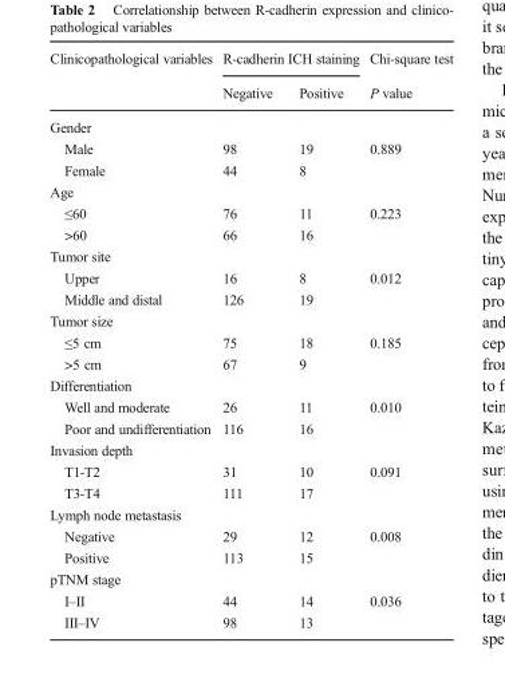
<table><thead><tr><td rowspan="2">Clinicopathological variables</td><td colspan="2">R-cadherin ICH staining</td><td rowspan="2">Chi-square test P value</td></tr><tr><td>Negative</td><td>Positive</td></tr></thead><tbody><tr><td colspan="4">Gender</td></tr><tr><td>Male</td><td>98</td><td>19</td><td>0.889</td></tr><tr><td>Female</td><td>44</td><td>8</td><td></td></tr><tr><td colspan="4">Age</td></tr><tr><td>≤60</td><td>76</td><td>11</td><td>0.223</td></tr><tr><td>&gt;60</td><td>66</td><td>16</td><td></td></tr><tr><td colspan="4">Tumor site</td></tr><tr><td>Upper</td><td>16</td><td>8</td><td>0.012</td></tr><tr><td>Middle and distal</td><td>126</td><td>19</td><td></td></tr><tr><td colspan="4">Tumor size</td></tr><tr><td>≤5 cm</td><td>75</td><td>18</td><td>0.185</td></tr><tr><td>&gt;5 cm</td><td>67</td><td>9</td><td></td></tr><tr><td colspan="4">Differentiation</td></tr><tr><td>Well and moderate</td><td>26</td><td>11</td><td>0.010</td></tr><tr><td>Poor and undifferentiation</td><td>116</td><td>16</td><td></td></tr><tr><td colspan="4">Invasion depth</td></tr><tr><td>T1-T2</td><td>31</td><td>10</td><td>0.091</td></tr><tr><td>T3-T4</td><td>111</td><td>17</td><td></td></tr><tr><td colspan="4">Lymph node metastasis</td></tr><tr><td>Negative</td><td>29</td><td>12</td><td>0.008</td></tr><tr><td>Positive</td><td>113</td><td>15</td><td></td></tr><tr><td colspan="4">pTNM stage</td></tr><tr><td>I–II</td><td>44</td><td>14</td><td>0.036</td></tr><tr><td>III–IV</td><td>98</td><td>13</td><td></td></tr></tbody></table>